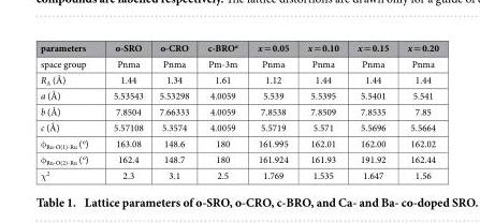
<table><thead><tr><td>parameters</td><td>o-SRO</td><td>o-CRO</td><td>c-BRO<sup>a</sup></td><td>x = 0.05</td><td>x = 0.10</td><td>x = 0.15</td><td>x = 0.20</td></tr></thead><tbody><tr><td>space group</td><td>Pnma</td><td>Pnma</td><td>Pm-3m</td><td>Pnma</td><td>Pnma</td><td>Pnma</td><td>Pnma</td></tr><tr><td>R<sub>A</sub> (Å)</td><td>1.44</td><td>1.34</td><td>1.61</td><td>1.12</td><td>1.44</td><td>1.44</td><td>1.44</td></tr><tr><td>a (Å)</td><td>5.53543</td><td>5.53298</td><td>4.0059</td><td>5.539</td><td>5.5395</td><td>5.5401</td><td>5.541</td></tr><tr><td>b (Å)</td><td>7.8504</td><td>7.66333</td><td>4.0059</td><td>7.8538</td><td>7.8509</td><td>7.8535</td><td>7.85</td></tr><tr><td>c (Å)</td><td>5.57108</td><td>5.3574</td><td>4.0059</td><td>5.5719</td><td>5.571</td><td>5.5696</td><td>5.5664</td></tr><tr><td>φ <sub>Ru-O(1)-Ru</sub> (<sup>o</sup>)</td><td>163.08</td><td>148.6</td><td>180</td><td>161.995</td><td>162.01</td><td>162.00</td><td>162.02</td></tr><tr><td>φ <sub>Ru-O(2)-Ru</sub> (<sup>o</sup>)</td><td>162.4</td><td>148.7</td><td>180</td><td>161.924</td><td>161.93</td><td>191.92</td><td>162.44</td></tr><tr><td>χ<sup>2</sup></td><td>2.3</td><td>3.1</td><td>2.5</td><td>1.769</td><td>1.535</td><td>1.647</td><td>1.56</td></tr></tbody></table>